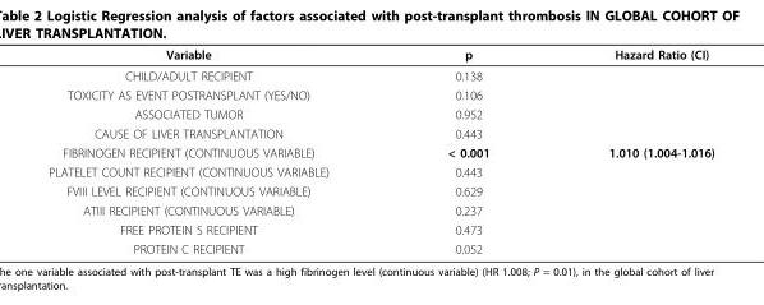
<table><thead><tr><td>Variable</td><td>p</td><td>Hazard Ratio (CI)</td></tr></thead><tbody><tr><td>CHILD/ADULT RECIPIENT</td><td>0.138</td><td></td></tr><tr><td>TOXICITY AS EVENT POSTRANSPLANT (YES/NO)</td><td>0.106</td><td></td></tr><tr><td>ASSOCIATED TUMOR</td><td>0.952</td><td></td></tr><tr><td>CAUSE OF LIVER TRANSPLANTATION</td><td>0.443</td><td></td></tr><tr><td>FIBRINOGEN RECIPIENT (CONTINUOUS VARIABLE)</td><td>&lt; 0.001</td><td>1.010 (1.004-1.016)</td></tr><tr><td>PLATELET COUNT RECIPIENT (CONTINUOUS VARIABLE)</td><td>0.443</td><td></td></tr><tr><td>FVIII LEVEL RECIPIENT (CONTINUOUS VARIABLE)</td><td>0.629</td><td></td></tr><tr><td>ATIII RECIPIENT (CONTINUOUS VARIABLE)</td><td>0.237</td><td></td></tr><tr><td>FREE PROTEIN S RECIPIENT</td><td>0.473</td><td></td></tr><tr><td>PROTEIN C RECIPIENT</td><td>0.052</td><td></td></tr></tbody></table>